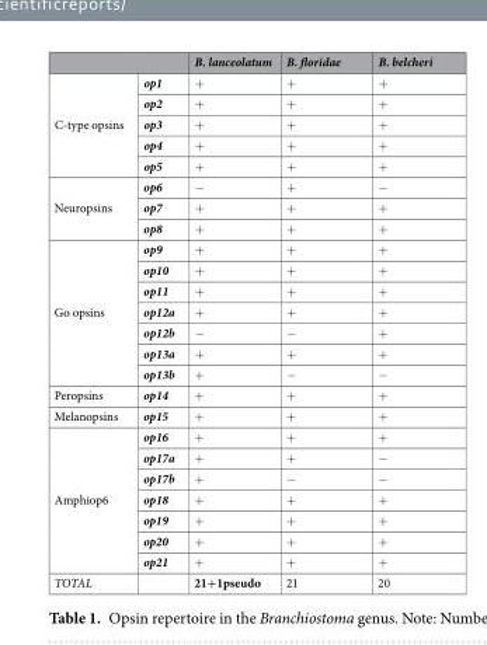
<table><thead><tr><td></td><td></td><td>B. lanceolatum</td><td>B. floridae</td><td>B. belcheri</td></tr></thead><tbody><tr><td rowspan="5">C-type opsins</td><td>op1</td><td>+</td><td>+</td><td>+</td></tr><tr><td>op2</td><td>+</td><td>+</td><td>+</td></tr><tr><td>op3</td><td>+</td><td>+</td><td>+</td></tr><tr><td>op4</td><td>+</td><td>+</td><td>+</td></tr><tr><td>op5</td><td>+</td><td>+</td><td>+</td></tr><tr><td rowspan="3">Neuropsins</td><td>op6</td><td>−</td><td>+</td><td>−</td></tr><tr><td>op7</td><td>+</td><td>+</td><td>+</td></tr><tr><td>op8</td><td>+</td><td>+</td><td>+</td></tr><tr><td rowspan="7">Go opsins</td><td>op9</td><td>+</td><td>+</td><td>+</td></tr><tr><td>op10</td><td>+</td><td>+</td><td>+</td></tr><tr><td>op11</td><td>+</td><td>+</td><td>+</td></tr><tr><td>op12a</td><td>+</td><td>+</td><td>+</td></tr><tr><td>op12b</td><td>−</td><td>−</td><td>+</td></tr><tr><td>op13a</td><td>+</td><td>+</td><td>+</td></tr><tr><td>op13b</td><td>+</td><td>−</td><td>−</td></tr><tr><td>Peropsins</td><td>op14</td><td>+</td><td>+</td><td>+</td></tr><tr><td>Melanopsins</td><td>op15</td><td>+</td><td>+</td><td>+</td></tr><tr><td rowspan="7">Amphiop6</td><td>op16</td><td>+</td><td>+</td><td>+</td></tr><tr><td>op17a</td><td>+</td><td>+</td><td>−</td></tr><tr><td>op17b</td><td>+</td><td>−</td><td>−</td></tr><tr><td>op18</td><td>+</td><td>+</td><td>+</td></tr><tr><td>op19</td><td>+</td><td>+</td><td>+</td></tr><tr><td>op20</td><td>+</td><td>+</td><td>+</td></tr><tr><td>op21</td><td>+</td><td>+</td><td>+</td></tr><tr><td>TOTAL</td><td></td><td>21+1pseudo</td><td>21</td><td>20</td></tr></tbody></table>